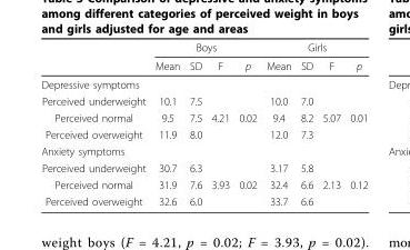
<table><thead><tr><td rowspan="2"></td><td colspan="4">Boys</td><td colspan="4">Girls</td></tr><tr><td>Mean</td><td>SD</td><td>F</td><td>p</td><td>Mean</td><td>SD</td><td>F</td><td>p</td></tr></thead><tbody><tr><td colspan="9">Depressive symptoms</td></tr><tr><td>Perceived underweight</td><td>10.1</td><td>7.5</td><td></td><td></td><td>10.0</td><td>7.0</td><td></td><td></td></tr><tr><td>Perceived normal</td><td>9.5</td><td>7.5</td><td>4.21</td><td>0.02</td><td>9.4</td><td>8.2</td><td>5.07</td><td>0.01</td></tr><tr><td>Perceived overweight</td><td>11.9</td><td>8.0</td><td></td><td></td><td>12.0</td><td>7.3</td><td></td><td></td></tr><tr><td colspan="9">Anxiety symptoms</td></tr><tr><td>Perceived underweight</td><td>30.7</td><td>6.3</td><td></td><td></td><td>3.17</td><td>5.8</td><td></td><td></td></tr><tr><td>Perceived normal</td><td>31.9</td><td>7.6</td><td>3.93</td><td>0.02</td><td>32.4</td><td>6.6</td><td>2.13</td><td>0.12</td></tr><tr><td>Perceived overweight</td><td>32.6</td><td>6.0</td><td></td><td></td><td>33.7</td><td>6.6</td><td></td><td></td></tr></tbody></table>